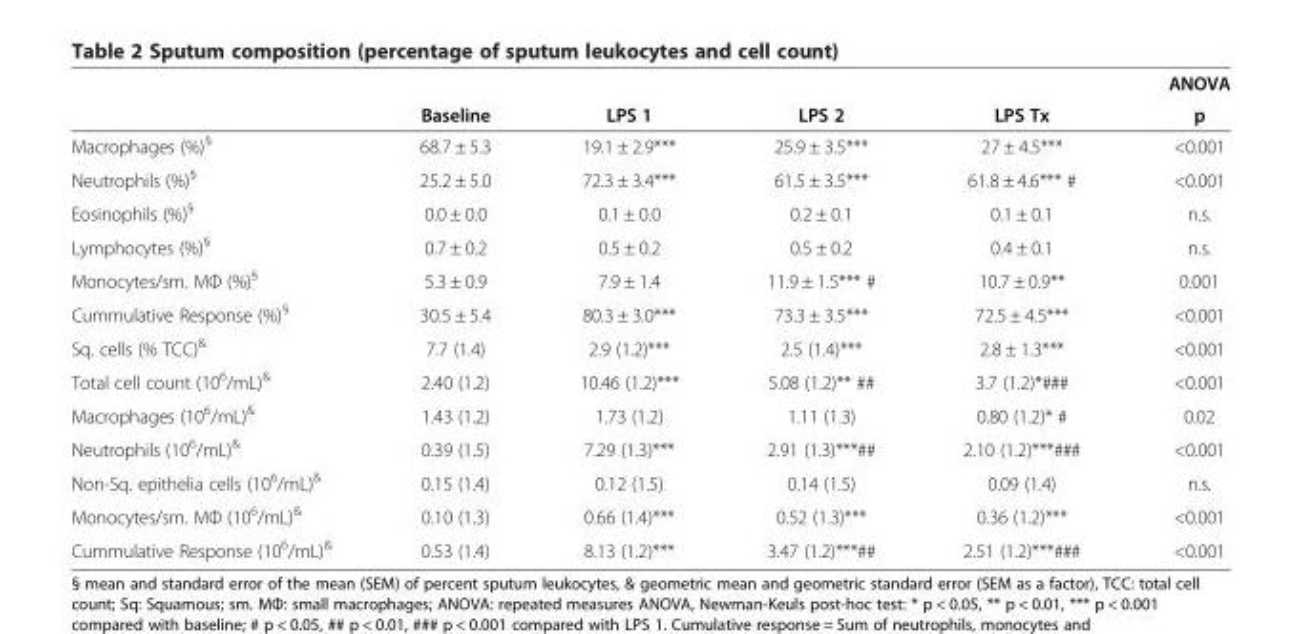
<table><thead><tr><td rowspan="2"></td><td rowspan="2">Baseline</td><td rowspan="2">LPS 1</td><td rowspan="2">LPS 2</td><td rowspan="2">LPS Tx</td><td rowspan="2">ANOVA p</td></tr><tr></tr></thead><tbody><tr><td>Macrophages (%)<sup>§</sup></td><td>68.7 ± 5.3</td><td>19.1 ± 2.9***</td><td>25.9 ± 3.5***</td><td>27 ± 4.5***</td><td>&lt;0.001</td></tr><tr><td>Neutrophils (%)<sup>§</sup></td><td>25.2 ± 5.0</td><td>72.3 ± 3.4***</td><td>61.5 ± 3.5***</td><td>61.8 ± 4.6*** #</td><td>&lt;0.001</td></tr><tr><td>Eosinophils (%)<sup>§</sup></td><td>0.0 ± 0.0</td><td>0.1 ± 0.0</td><td>0.2 ± 0.1</td><td>0.1 ± 0.1</td><td>n.s.</td></tr><tr><td>Lymphocytes (%)<sup>§</sup></td><td>0.7 ± 0.2</td><td>0.5 ± 0.2</td><td>0.5 ± 0.2</td><td>0.4 ± 0.1</td><td>n.s.</td></tr><tr><td>Monocytes/sm. MФ (%)<sup>§</sup></td><td>5.3 ± 0.9</td><td>7.9 ± 1.4</td><td>11.9 ± 1.5*** #</td><td>10.7 ± 0.9**</td><td>0.001</td></tr><tr><td>Cummulative Response (%)<sup>§</sup></td><td>30.5 ± 5.4</td><td>80.3 ± 3.0***</td><td>73.3 ± 3.5***</td><td>72.5 ± 4.5***</td><td>&lt;0.001</td></tr><tr><td>Sq. cells (% TCC)<sup>&amp;</sup></td><td>7.7 (1.4)</td><td>2.9 (1.2)***</td><td>2.5 (1.4)***</td><td>2.8 ± 1.3***</td><td>&lt;0.001</td></tr><tr><td>Total cell count (10<sup>6</sup>/mL)<sup>&amp;</sup></td><td>2.40 (1.2)</td><td>10.46 (1.2)***</td><td>5.08 (1.2)** ##</td><td>3.7 (1.2)*###</td><td>&lt;0.001</td></tr><tr><td>Macrophages (10<sup>6</sup>/mL)<sup>&amp;</sup></td><td>1.43 (1.2)</td><td>1.73 (1.2)</td><td>1.11 (1.3)</td><td>0.80 (1.2)* #</td><td>0.02</td></tr><tr><td>Neutrophils (10<sup>6</sup>/mL)<sup>&amp;</sup></td><td>0.39 (1.5)</td><td>7.29 (1.3)***</td><td>2.91 (1.3)***##</td><td>2.10 (1.2)***###</td><td>&lt;0.001</td></tr><tr><td>Non-Sq. epithelia cells (10<sup>6</sup>/mL)<sup>&amp;</sup></td><td>0.15 (1.4)</td><td>0.12 (1.5)</td><td>0.14 (1.5)</td><td>0.09 (1.4)</td><td>n.s.</td></tr><tr><td>Monocytes/sm. MФ (10<sup>6</sup>/mL)<sup>&amp;</sup></td><td>0.10 (1.3)</td><td>0.66 (1.4)***</td><td>0.52 (1.3)***</td><td>0.36 (1.2)***</td><td>&lt;0.001</td></tr><tr><td>Cummulative Response (10<sup>6</sup>/mL)<sup>&amp;</sup></td><td>0.53 (1.4)</td><td>8.13 (1.2)***</td><td>3.47 (1.2)***##</td><td>2.51 (1.2)***###</td><td>&lt;0.001</td></tr></tbody></table>